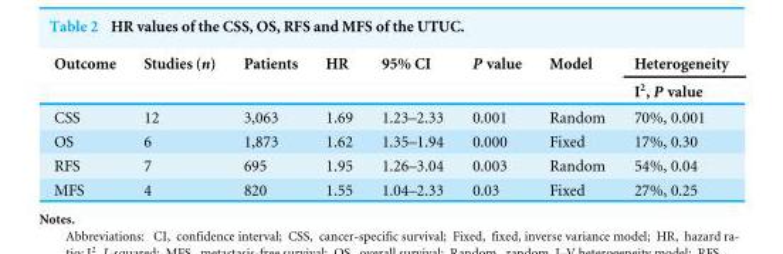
<table><thead><tr><td rowspan="2">Outcome</td><td rowspan="2">Studies (n)</td><td rowspan="2">Patients</td><td rowspan="2">HR</td><td rowspan="2">95% CI</td><td rowspan="2">P value</td><td rowspan="2">Model</td><td rowspan="2">Heterogeneity I<sup>2</sup>, P value</td></tr><tr></tr></thead><tbody><tr><td>CSS</td><td>12</td><td>3,063</td><td>1.69</td><td>1.23–2.33</td><td>0.001</td><td>Random</td><td>70%, 0.001</td></tr><tr><td>OS</td><td>6</td><td>1,873</td><td>1.62</td><td>1.35–1.94</td><td>0.000</td><td>Fixed</td><td>17%, 0.30</td></tr><tr><td>RFS</td><td>7</td><td>695</td><td>1.95</td><td>1.26–3.04</td><td>0.003</td><td>Random</td><td>54%, 0.04</td></tr><tr><td>MFS</td><td>4</td><td>820</td><td>1.55</td><td>1.04–2.33</td><td>0.03</td><td>Fixed</td><td>27%, 0.25</td></tr></tbody></table>